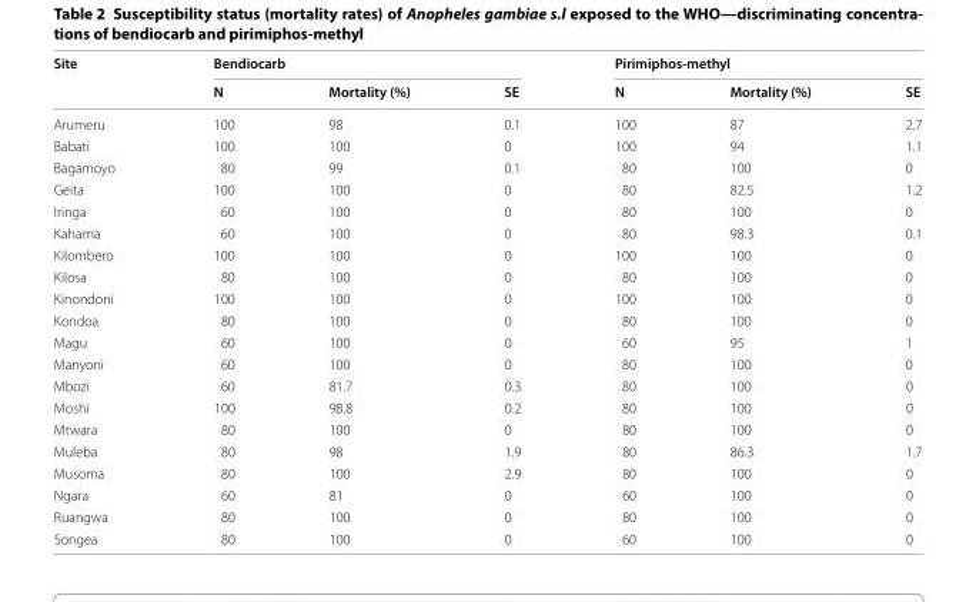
<table><thead><tr><td rowspan="2">Site</td><td colspan="3">Bendiocarb</td><td colspan="3">Pirimiphos-methyl</td></tr><tr><td>N</td><td>Mortality (%)</td><td>SE</td><td>N</td><td>Mortality (%)</td><td>SE</td></tr></thead><tbody><tr><td>Arumeru</td><td>100</td><td>98</td><td>0.1</td><td>100</td><td>87</td><td>2.7</td></tr><tr><td>Babati</td><td>100</td><td>100</td><td>0</td><td>100</td><td>94</td><td>1.1</td></tr><tr><td>Bagamoyo</td><td>80</td><td>99</td><td>0.1</td><td>80</td><td>100</td><td>0</td></tr><tr><td>Geita</td><td>100</td><td>100</td><td>0</td><td>80</td><td>82.5</td><td>1.2</td></tr><tr><td>Iringa</td><td>60</td><td>100</td><td>0</td><td>80</td><td>100</td><td>0</td></tr><tr><td>Kahama</td><td>60</td><td>100</td><td>0</td><td>80</td><td>98.3</td><td>0.1</td></tr><tr><td>Kilombero</td><td>100</td><td>100</td><td>0</td><td>100</td><td>100</td><td>0</td></tr><tr><td>Kilosa</td><td>80</td><td>100</td><td>0</td><td>80</td><td>100</td><td>0</td></tr><tr><td>Kinondoni</td><td>100</td><td>100</td><td>0</td><td>100</td><td>100</td><td>0</td></tr><tr><td>Kondoa</td><td>80</td><td>100</td><td>0</td><td>80</td><td>100</td><td>0</td></tr><tr><td>Magu</td><td>60</td><td>100</td><td>0</td><td>60</td><td>95</td><td>1</td></tr><tr><td>Manyoni</td><td>60</td><td>100</td><td>0</td><td>80</td><td>100</td><td>0</td></tr><tr><td>Mbozi</td><td>60</td><td>81.7</td><td>0.3</td><td>80</td><td>100</td><td>0</td></tr><tr><td>Moshi</td><td>100</td><td>98.8</td><td>0.2</td><td>80</td><td>100</td><td>0</td></tr><tr><td>Mtwara</td><td>80</td><td>100</td><td>0</td><td>80</td><td>100</td><td>0</td></tr><tr><td>Muleba</td><td>80</td><td>98</td><td>1.9</td><td>80</td><td>86.3</td><td>1.7</td></tr><tr><td>Musoma</td><td>80</td><td>100</td><td>2.9</td><td>80</td><td>100</td><td>0</td></tr><tr><td>Ngara</td><td>60</td><td>81</td><td>0</td><td>60</td><td>100</td><td>0</td></tr><tr><td>Ruangwa</td><td>80</td><td>100</td><td>0</td><td>80</td><td>100</td><td>0</td></tr><tr><td>Songea</td><td>80</td><td>100</td><td>0</td><td>60</td><td>100</td><td>0</td></tr></tbody></table>